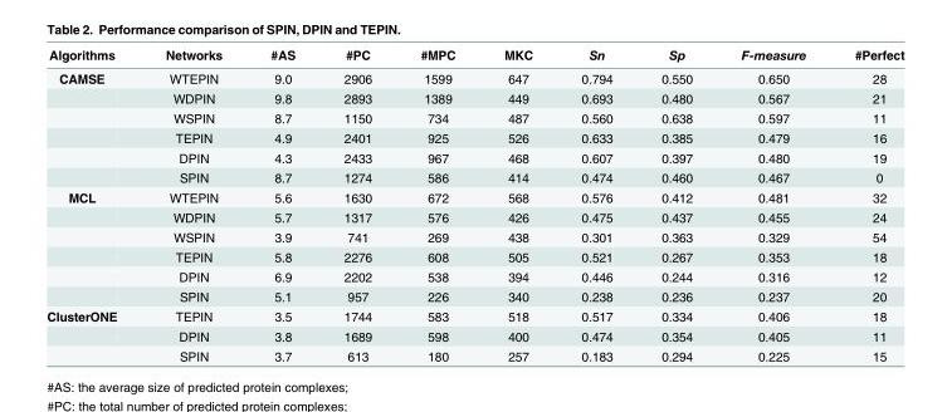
<table><thead><tr><td>Algorithms</td><td>Networks</td><td>#AS</td><td>#PC</td><td>#MPC</td><td>MKC</td><td>Sn</td><td>Sp</td><td>F-measure</td><td>#Perfect</td></tr></thead><tbody><tr><td rowspan="6">CAMSE</td><td>WTEPIN</td><td>9.0</td><td>2906</td><td>1599</td><td>647</td><td>0.794</td><td>0.550</td><td>0.650</td><td>28</td></tr><tr><td>WDPIN</td><td>9.8</td><td>2893</td><td>1389</td><td>449</td><td>0.693</td><td>0.480</td><td>0.567</td><td>21</td></tr><tr><td>WSPIN</td><td>8.7</td><td>1150</td><td>734</td><td>487</td><td>0.560</td><td>0.638</td><td>0.597</td><td>11</td></tr><tr><td>TEPIN</td><td>4.9</td><td>2401</td><td>925</td><td>526</td><td>0.633</td><td>0.385</td><td>0.479</td><td>16</td></tr><tr><td>DPIN</td><td>4.3</td><td>2433</td><td>967</td><td>468</td><td>0.607</td><td>0.397</td><td>0.480</td><td>19</td></tr><tr><td>SPIN</td><td>8.7</td><td>1274</td><td>586</td><td>414</td><td>0.474</td><td>0.460</td><td>0.467</td><td>0</td></tr><tr><td rowspan="6">MCL</td><td>WTEPIN</td><td>5.6</td><td>1630</td><td>672</td><td>568</td><td>0.576</td><td>0.412</td><td>0.481</td><td>32</td></tr><tr><td>WDPIN</td><td>5.7</td><td>1317</td><td>576</td><td>426</td><td>0.475</td><td>0.437</td><td>0.455</td><td>24</td></tr><tr><td>WSPIN</td><td>3.9</td><td>741</td><td>269</td><td>438</td><td>0.301</td><td>0.363</td><td>0.329</td><td>54</td></tr><tr><td>TEPIN</td><td>5.8</td><td>2276</td><td>608</td><td>505</td><td>0.521</td><td>0.267</td><td>0.353</td><td>18</td></tr><tr><td>DPIN</td><td>6.9</td><td>2202</td><td>538</td><td>394</td><td>0.446</td><td>0.244</td><td>0.316</td><td>12</td></tr><tr><td>SPIN</td><td>5.1</td><td>957</td><td>226</td><td>340</td><td>0.238</td><td>0.236</td><td>0.237</td><td>20</td></tr><tr><td rowspan="3">ClusterONE</td><td>TEPIN</td><td>3.5</td><td>1744</td><td>583</td><td>518</td><td>0.517</td><td>0.334</td><td>0.406</td><td>18</td></tr><tr><td>DPIN</td><td>3.8</td><td>1689</td><td>598</td><td>400</td><td>0.474</td><td>0.354</td><td>0.405</td><td>11</td></tr><tr><td>SPIN</td><td>3.7</td><td>613</td><td>180</td><td>257</td><td>0.183</td><td>0.294</td><td>0.225</td><td>15</td></tr></tbody></table>